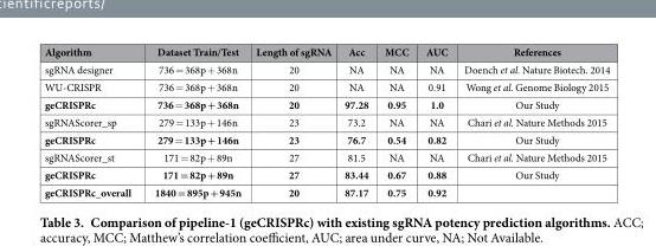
<table><thead><tr><td>Algorithm</td><td>Dataset Train/Test</td><td>Length of sgRNA</td><td>Acc</td><td>MCC</td><td>AUC</td><td>References</td></tr></thead><tbody><tr><td>sgRNA designer</td><td>736 = 368p + 368n</td><td>20</td><td>NA</td><td>NA</td><td>NA</td><td>Doench et al. Nature Biotech. 2014</td></tr><tr><td>WU-CRISPR</td><td>736 = 368p + 368n</td><td>20</td><td>NA</td><td>NA</td><td>0.91</td><td>Wong et al. Genome Biology 2015</td></tr><tr><td>geCRISPRc</td><td>736 = 368p + 368n</td><td>20</td><td>97.28</td><td>0.95</td><td>1.0</td><td>Our Study</td></tr><tr><td>sgRNAScorer_sp</td><td>279 = 133p + 146n</td><td>23</td><td>73.2</td><td>NA</td><td>NA</td><td>Chari et al. Nature Methods 2015</td></tr><tr><td>geCRISPRc</td><td>279 = 133p + 146n</td><td>23</td><td>76.7</td><td>0.54</td><td>0.82</td><td>Our Study</td></tr><tr><td>sgRNAScorer_st</td><td>171 = 82p + 89n</td><td>27</td><td>81.5</td><td>NA</td><td>NA</td><td>Chari et al. Nature Methods 2015</td></tr><tr><td>geCRISPRc</td><td>171 = 82p + 89n</td><td>27</td><td>83.44</td><td>0.67</td><td>0.88</td><td>Our Study</td></tr><tr><td>geCRISPRc_overall</td><td>1840 = 895p + 945n</td><td>20</td><td>87.17</td><td>0.75</td><td>0.92</td><td></td></tr></tbody></table>